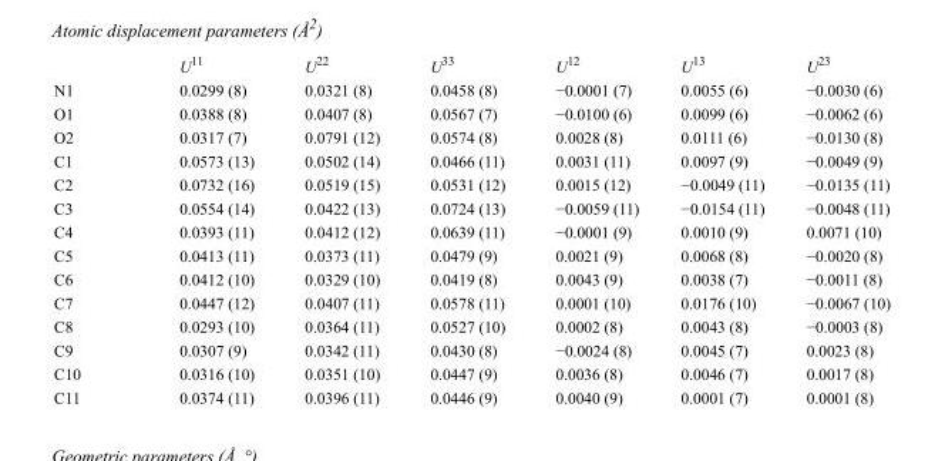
<table><thead><tr><td></td><td>U<sup>11</sup></td><td>U<sup>22</sup></td><td>U<sup>33</sup></td><td>U<sup>12</sup></td><td>U<sup>13</sup></td><td>U<sup>23</sup></td></tr></thead><tbody><tr><td>N1</td><td>0.0299 (8)</td><td>0.0321 (8)</td><td>0.0458 (8)</td><td>−0.0001 (7)</td><td>0.0055 (6)</td><td>−0.0030 (6)</td></tr><tr><td>O1</td><td>0.0388 (8)</td><td>0.0407 (8)</td><td>0.0567 (7)</td><td>−0.0100 (6)</td><td>0.0099 (6)</td><td>−0.0062 (6)</td></tr><tr><td>O2</td><td>0.0317 (7)</td><td>0.0791 (12)</td><td>0.0574 (8)</td><td>0.0028 (8)</td><td>0.0111 (6)</td><td>−0.0130 (8)</td></tr><tr><td>C1</td><td>0.0573 (13)</td><td>0.0502 (14)</td><td>0.0466 (11)</td><td>0.0031 (11)</td><td>0.0097 (9)</td><td>−0.0049 (9)</td></tr><tr><td>C2</td><td>0.0732 (16)</td><td>0.0519 (15)</td><td>0.0531 (12)</td><td>0.0015 (12)</td><td>−0.0049 (11)</td><td>−0.0135 (11)</td></tr><tr><td>C3</td><td>0.0554 (14)</td><td>0.0422 (13)</td><td>0.0724 (13)</td><td>−0.0059 (11)</td><td>−0.0154 (11)</td><td>−0.0048 (11)</td></tr><tr><td>C4</td><td>0.0393 (11)</td><td>0.0412 (12)</td><td>0.0639 (11)</td><td>−0.0001 (9)</td><td>0.0010 (9)</td><td>0.0071 (10)</td></tr><tr><td>C5</td><td>0.0413 (11)</td><td>0.0373 (11)</td><td>0.0479 (9)</td><td>0.0021 (9)</td><td>0.0068 (8)</td><td>−0.0020 (8)</td></tr><tr><td>C6</td><td>0.0412 (10)</td><td>0.0329 (10)</td><td>0.0419 (8)</td><td>0.0043 (9)</td><td>0.0038 (7)</td><td>−0.0011 (8)</td></tr><tr><td>C7</td><td>0.0447 (12)</td><td>0.0407 (11)</td><td>0.0578 (11)</td><td>0.0001 (10)</td><td>0.0176 (10)</td><td>−0.0067 (10)</td></tr><tr><td>C8</td><td>0.0293 (10)</td><td>0.0364 (11)</td><td>0.0527 (10)</td><td>0.0002 (8)</td><td>0.0043 (8)</td><td>−0.0003 (8)</td></tr><tr><td>C9</td><td>0.0307 (9)</td><td>0.0342 (11)</td><td>0.0430 (8)</td><td>−0.0024 (8)</td><td>0.0045 (7)</td><td>0.0023 (8)</td></tr><tr><td>C10</td><td>0.0316 (10)</td><td>0.0351 (10)</td><td>0.0447 (9)</td><td>0.0036 (8)</td><td>0.0046 (7)</td><td>0.0017 (8)</td></tr><tr><td>C11</td><td>0.0374 (11)</td><td>0.0396 (11)</td><td>0.0446 (9)</td><td>0.0040 (9)</td><td>0.0001 (7)</td><td>0.0001 (8)</td></tr></tbody></table>